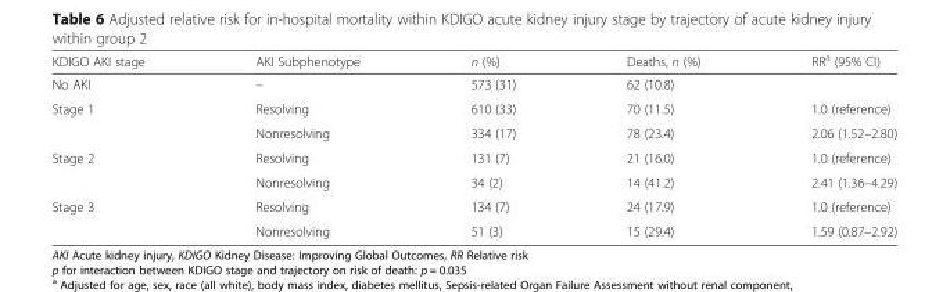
<table><thead><tr><td>KDIGO AKI stage</td><td>AKI Subphenotype</td><td>n (%)</td><td>Deaths, n (%)</td><td>RR<sup>a</sup> (95% CI)</td></tr></thead><tbody><tr><td>No AKI</td><td>–</td><td>573 (31)</td><td>62 (10.8)</td><td></td></tr><tr><td rowspan="2">Stage 1</td><td>Resolving</td><td>610 (33)</td><td>70 (11.5)</td><td>1.0 (reference)</td></tr><tr><td>Nonresolving</td><td>334 (17)</td><td>78 (23.4)</td><td>2.06 (1.52–2.80)</td></tr><tr><td rowspan="2">Stage 2</td><td>Resolving</td><td>131 (7)</td><td>21 (16.0)</td><td>1.0 (reference)</td></tr><tr><td>Nonresolving</td><td>34 (2)</td><td>14 (41.2)</td><td>2.41 (1.36–4.29)</td></tr><tr><td rowspan="2">Stage 3</td><td>Resolving</td><td>134 (7)</td><td>24 (17.9)</td><td>1.0 (reference)</td></tr><tr><td>Nonresolving</td><td>51 (3)</td><td>15 (29.4)</td><td>1.59 (0.87–2.92)</td></tr></tbody></table>